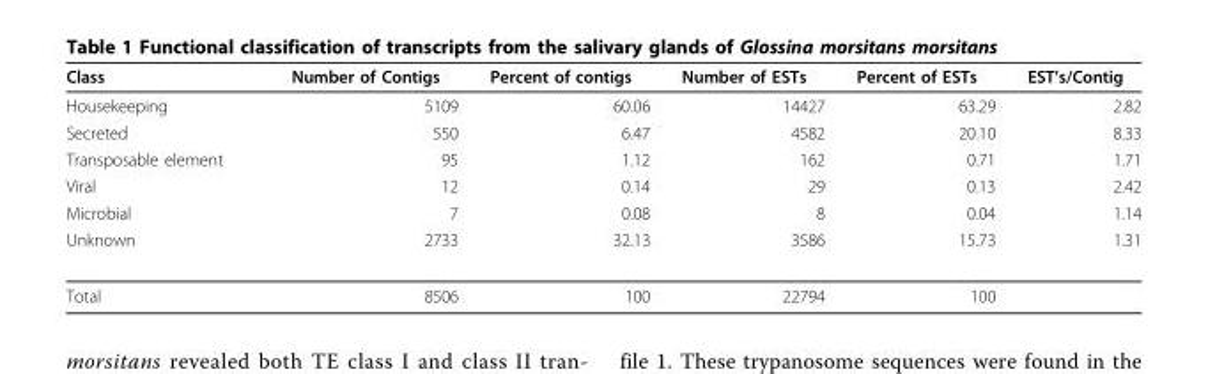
<table><thead><tr><td>Class</td><td>Number of Contigs</td><td>Percent of contigs</td><td>Number of ESTs</td><td>Percent of ESTs</td><td>EST’s/Contig</td></tr></thead><tbody><tr><td>Housekeeping</td><td>5109</td><td>60.06</td><td>14427</td><td>63.29</td><td>2.82</td></tr><tr><td>Secreted</td><td>550</td><td>6.47</td><td>4582</td><td>20.10</td><td>8.33</td></tr><tr><td>Transposable element</td><td>95</td><td>1.12</td><td>162</td><td>0.71</td><td>1.71</td></tr><tr><td>Viral</td><td>12</td><td>0.14</td><td>29</td><td>0.13</td><td>2.42</td></tr><tr><td>Microbial</td><td>7</td><td>0.08</td><td>8</td><td>0.04</td><td>1.14</td></tr><tr><td>Unknown</td><td>2733</td><td>32.13</td><td>3586</td><td>15.73</td><td>1.31</td></tr><tr><td>Total</td><td>8506</td><td>100</td><td>22794</td><td>100</td><td></td></tr></tbody></table>